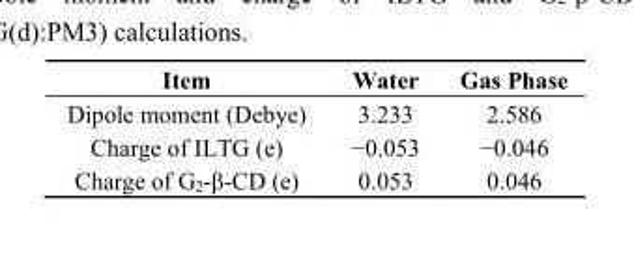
<table><thead><tr><td>Item</td><td>Water</td><td>Gas Phase</td></tr></thead><tbody><tr><td>Dipole moment (Debye)</td><td>3.233</td><td>2.586</td></tr><tr><td>Charge of ILTG (e)</td><td>−0.053</td><td>−0.046</td></tr><tr><td>Charge of G<sub>2</sub>-β-CD (e)</td><td>0.053</td><td>0.046</td></tr></tbody></table>